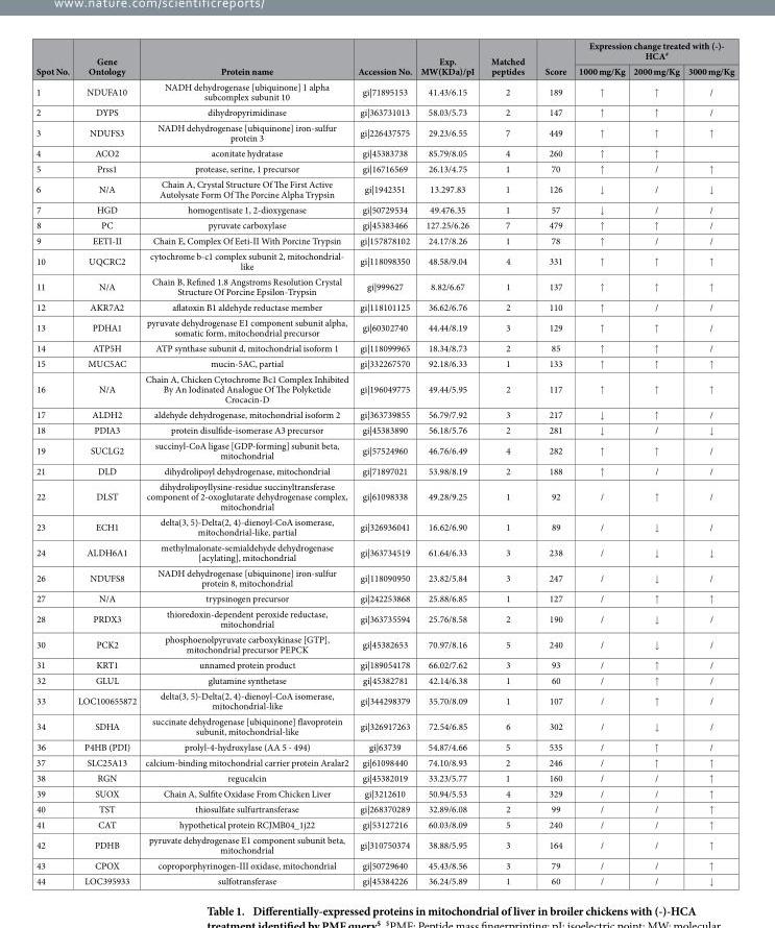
<table><thead><tr><td rowspan="2">Spot No.</td><td rowspan="2">Gene Ontology</td><td rowspan="2">Protein name</td><td rowspan="2">Accession No.</td><td rowspan="2">Exp. MW(KDa)/pI</td><td rowspan="2">Matched peptides</td><td rowspan="2">Score</td><td colspan="3">Expression change treated with (-)- HCA#</td></tr><tr><td>1000 mg/Kg</td><td>2000 mg/Kg</td><td>3000 mg/Kg</td></tr></thead><tbody><tr><td>1</td><td>NDUFA10</td><td>NADH dehydrogenase [ubiquinone] 1 alpha subcomplex subunit 10</td><td>gi|71895153</td><td>41.43/6.15</td><td>2</td><td>189</td><td>↑</td><td>↑</td><td>/</td></tr><tr><td>2</td><td>DYPS</td><td>dihydropyrimidinase</td><td>gi|363731013</td><td>58.03/5.73</td><td>2</td><td>147</td><td>↑</td><td>↑</td><td>/</td></tr><tr><td>3</td><td>NDUFS3</td><td>NADH dehydrogenase [ubiquinone] iron-sulfur protein 3</td><td>gi|226437575</td><td>29.23/6.55</td><td>7</td><td>449</td><td>↑</td><td>↑</td><td>↑</td></tr><tr><td>4</td><td>ACO2</td><td>aconitate hydratase</td><td>gi|45383738</td><td>85.79/8.05</td><td>4</td><td>260</td><td>↑</td><td>↑</td><td></td></tr><tr><td>5</td><td>Prss1</td><td>protease, serine, 1 precursor</td><td>gi|16716569</td><td>26.13/4.75</td><td>1</td><td>70</td><td>↑</td><td>/</td><td>↑</td></tr><tr><td>6</td><td>N/A</td><td>Chain A, Crystal Structure Of The First Active Autolysate Form Of The Porcine Alpha Trypsin</td><td>gi|1942351</td><td>13.297.83</td><td>1</td><td>126</td><td>↓</td><td>/</td><td>↓</td></tr><tr><td>7</td><td>HGD</td><td>homogentisate 1, 2-dioxygenase</td><td>gi|50729534</td><td>49.476.35</td><td>1</td><td>57</td><td>↓</td><td>/</td><td>/</td></tr><tr><td>8</td><td>PC</td><td>pyruvate carboxylase</td><td>gi|45383466</td><td>127.25/6.26</td><td>7</td><td>479</td><td>↑</td><td>↑</td><td>/</td></tr><tr><td>9</td><td>EETI-II</td><td>Chain E, Complex Of Eeti-II With Porcine Trypsin</td><td>gi|157878102</td><td>24.17/8.26</td><td>1</td><td>78</td><td>↑</td><td>/</td><td>/</td></tr><tr><td>10</td><td>UQCRC2</td><td>cytochrome b-c1 complex subunit 2, mitochondrial- like</td><td>gi|118098350</td><td>48.58/9.04</td><td>4</td><td>331</td><td>↑</td><td>↑</td><td>↑</td></tr><tr><td>11</td><td>N/A</td><td>Chain B, Refined 1.8 Angstroms Resolution Crystal Structure Of Porcine Epsilon-Trypsin</td><td>gi|999627</td><td>8.82/6.67</td><td>1</td><td>137</td><td>↑</td><td>↑</td><td>↑</td></tr><tr><td>12</td><td>AKR7A2</td><td>aflatoxin B1 aldehyde reductase member</td><td>gi|118101125</td><td>36.62/6.76</td><td>2</td><td>110</td><td>↑</td><td>/</td><td>/</td></tr><tr><td>13</td><td>PDHA1</td><td>pyruvate dehydrogenase E1 component subunit alpha, somatic form, mitochondrial precursor</td><td>gi|60302740</td><td>44.44/8.19</td><td>3</td><td>129</td><td>↑</td><td>↑</td><td>/</td></tr><tr><td>14</td><td>ATP5H</td><td>ATP synthase subunit d, mitochondrial isoform 1</td><td>gi|118099965</td><td>18.34/8.73</td><td>2</td><td>85</td><td>↑</td><td>↑</td><td>/</td></tr><tr><td>15</td><td>MUC5AC</td><td>mucin-5AC, partial</td><td>gi|332267570</td><td>92.18/6.33</td><td>1</td><td>133</td><td>↑</td><td>↑</td><td>↑</td></tr><tr><td>16</td><td>N/A</td><td>Chain A, Chicken Cytochrome Bc1 Complex Inhibited By An Iodinated Analogue Of The Polyketide Crocacin-D</td><td>gi|196049775</td><td>49.44/5.95</td><td>2</td><td>117</td><td>↑</td><td>↑</td><td>↑</td></tr><tr><td>17</td><td>ALDH2</td><td>aldehyde dehydrogenase, mitochondrial isoform 2</td><td>gi|363739855</td><td>56.79/7.92</td><td>3</td><td>217</td><td>↓</td><td>↑</td><td>/</td></tr><tr><td>18</td><td>PDIA3</td><td>protein disulfide-isomerase A3 precursor</td><td>gi|45383890</td><td>56.18/5.76</td><td>2</td><td>281</td><td>↓</td><td>/</td><td>↓</td></tr><tr><td>19</td><td>SUCLG2</td><td>succinyl-CoA ligase [GDP-forming] subunit beta, mitochondrial</td><td>gi|57524960</td><td>46.76/6.49</td><td>4</td><td>282</td><td>↑</td><td>↑</td><td>/</td></tr><tr><td>21</td><td>DLD</td><td>dihydrolipoyl dehydrogenase, mitochondrial</td><td>gi|71897021</td><td>53.98/8.19</td><td>2</td><td>188</td><td>↑</td><td>/</td><td>/</td></tr><tr><td>22</td><td>DLST</td><td>dihydrolipoyllysine-residue succinyltransferase component of 2-oxoglutarate dehydrogenase complex, mitochondrial</td><td>gi|61098338</td><td>49.28/9.25</td><td>1</td><td>92</td><td>/</td><td>↑</td><td>/</td></tr><tr><td>23</td><td>ECH1</td><td>delta(3, 5)-Delta(2, 4)-dienoyl-CoA isomerase, mitochondrial-like, partial</td><td>gi|326936041</td><td>16.62/6.90</td><td>1</td><td>89</td><td>/</td><td>↓</td><td>/</td></tr><tr><td>24</td><td>ALDH6A1</td><td>methylmalonate-semialdehyde dehydrogenase [acylating], mitochondrial</td><td>gi|363734519</td><td>61.64/6.33</td><td>3</td><td>238</td><td>/</td><td>↓</td><td>↓</td></tr><tr><td>26</td><td>NDUFS8</td><td>NADH dehydrogenase [ubiquinone] iron-sulfur protein 8, mitochondrial</td><td>gi|118090950</td><td>23.82/5.84</td><td>3</td><td>247</td><td>/</td><td>↓</td><td>/</td></tr><tr><td>27</td><td>N/A</td><td>trypsinogen precursor</td><td>gi|242253868</td><td>25.88/6.85</td><td>1</td><td>127</td><td>/</td><td>↑</td><td>↑</td></tr><tr><td>28</td><td>PRDX3</td><td>thioredoxin-dependent peroxide reductase, mitochondrial</td><td>gi|363735594</td><td>25.76/8.58</td><td>2</td><td>190</td><td>/</td><td>↓</td><td>/</td></tr><tr><td>30</td><td>PCK2</td><td>phosphoenolpyruvate carboxykinase [GTP], mitochondrial precursor PEPCK</td><td>gi|45382653</td><td>70.97/8.16</td><td>5</td><td>240</td><td>/</td><td>↓</td><td>/</td></tr><tr><td>31</td><td>KRT1</td><td>unnamed protein product</td><td>gi|189054178</td><td>66.02/7.62</td><td>3</td><td>93</td><td>/</td><td>↑</td><td>/</td></tr><tr><td>32</td><td>GLUL</td><td>glutamine synthetase</td><td>gi|45382781</td><td>42.14/6.38</td><td>1</td><td>60</td><td>/</td><td>↑</td><td>/</td></tr><tr><td>33</td><td>LOC100655872</td><td>delta(3, 5)-Delta(2, 4)-dienoyl-CoA isomerase, mitochondrial-like</td><td>gi|344298379</td><td>35.70/8.09</td><td>1</td><td>107</td><td>/</td><td>↑</td><td>/</td></tr><tr><td>34</td><td>SDHA</td><td>succinate dehydrogenase [ubiquinone] flavoprotein subunit, mitochondrial-like</td><td>gi|326917263</td><td>72.54/6.85</td><td>6</td><td>302</td><td>/</td><td>↓</td><td>/</td></tr><tr><td>36</td><td>P4HB (PDI)</td><td>prolyl-4-hydroxylase (AA 5 - 494)</td><td>gi|63739</td><td>54.87/4.66</td><td>5</td><td>535</td><td>/</td><td>↑</td><td>/</td></tr><tr><td>37</td><td>SLC25A13</td><td>calcium-binding mitochondrial carrier protein Aralar2</td><td>gi|61098440</td><td>74.10/8.93</td><td>2</td><td>246</td><td>/</td><td>↑</td><td>↑</td></tr><tr><td>38</td><td>RGN</td><td>regucalcin</td><td>gi|45382019</td><td>33.23/5.77</td><td>1</td><td>160</td><td>/</td><td>/</td><td>↑</td></tr><tr><td>39</td><td>SUOX</td><td>Chain A, Sulfite Oxidase From Chicken Liver</td><td>gi|3212610</td><td>50.94/5.53</td><td>4</td><td>329</td><td>/</td><td>/</td><td>↑</td></tr><tr><td>40</td><td>TST</td><td>thiosulfate sulfurtransferase</td><td>gi|268370289</td><td>32.89/6.08</td><td>2</td><td>99</td><td>/</td><td>/</td><td>↑</td></tr><tr><td>41</td><td>CAT</td><td>hypothetical protein RCJMB04_1j22</td><td>gi|53127216</td><td>60.03/8.09</td><td>5</td><td>240</td><td>/</td><td>/</td><td>↑</td></tr><tr><td>42</td><td>PDHB</td><td>pyruvate dehydrogenase E1 component subunit beta, mitochondrial</td><td>gi|310750374</td><td>38.88/5.95</td><td>3</td><td>164</td><td>/</td><td>/</td><td>↑</td></tr><tr><td>43</td><td>CPOX</td><td>coproporphyrinogen-III oxidase, mitochondrial</td><td>gi|50729640</td><td>45.43/8.56</td><td>3</td><td>79</td><td>/</td><td>/</td><td>↑</td></tr><tr><td>44</td><td>LOC395933</td><td>sulfotransferase</td><td>gi|45384226</td><td>36.24/5.89</td><td>1</td><td>60</td><td>/</td><td>/</td><td>↓</td></tr></tbody></table>